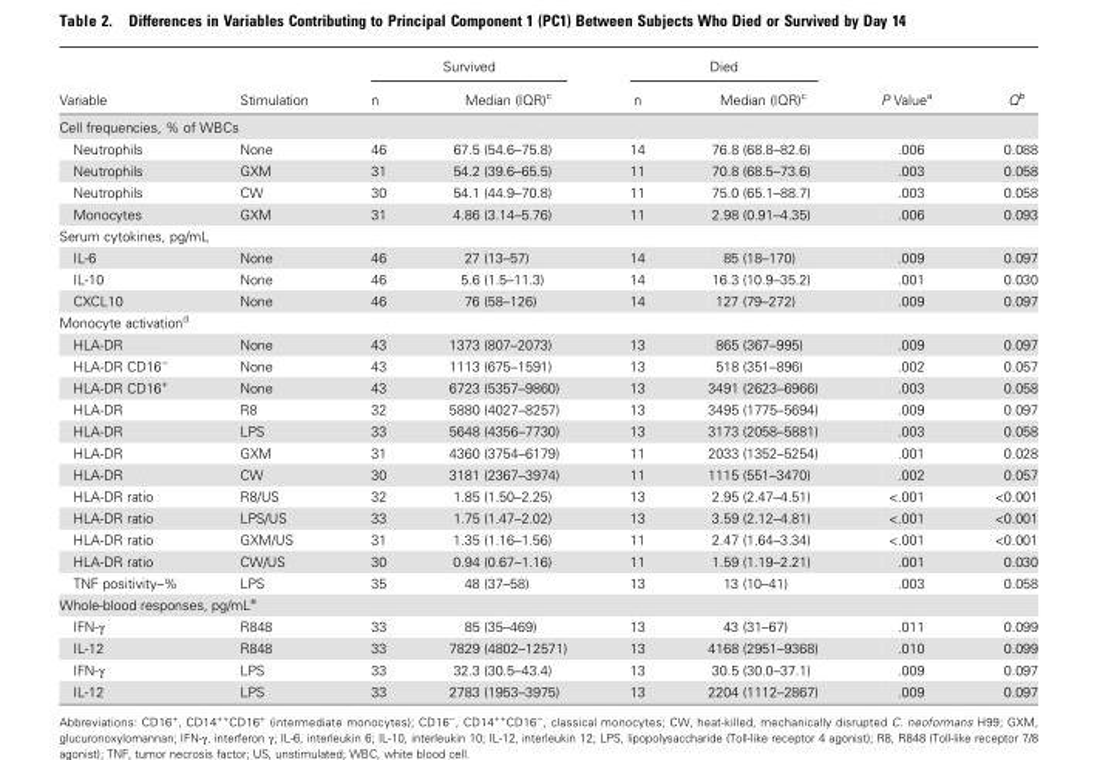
<table><thead><tr><td rowspan="2">Variable</td><td rowspan="2">Stimulation</td><td colspan="2">Survived</td><td colspan="2">Died</td><td rowspan="2">P Value<sup>a</sup></td><td rowspan="2">Q<sup>b</sup></td></tr><tr><td>n</td><td>Median (IQR)<sup>c</sup></td><td>n</td><td>Median (IQR)<sup>c</sup></td></tr></thead><tbody><tr><td colspan="8">Cell frequencies, % of WBCs</td></tr><tr><td>Neutrophils</td><td>None</td><td>46</td><td>67.5 (54.6–75.8)</td><td>14</td><td>76.8 (68.8–82.6)</td><td>.006</td><td>0.088</td></tr><tr><td>Neutrophils</td><td>GXM</td><td>31</td><td>54.2 (39.6–65.5)</td><td>11</td><td>70.8 (68.5–73.6)</td><td>.003</td><td>0.058</td></tr><tr><td>Neutrophils</td><td>CW</td><td>30</td><td>54.1 (44.9–70.8)</td><td>11</td><td>75.0 (65.1–88.7)</td><td>.003</td><td>0.058</td></tr><tr><td>Monocytes</td><td>GXM</td><td>31</td><td>4.86 (3.14–5.76)</td><td>11</td><td>2.98 (0.91–4.35)</td><td>.006</td><td>0.093</td></tr><tr><td colspan="8">Serum cytokines, pg/mL</td></tr><tr><td>IL-6</td><td>None</td><td>46</td><td>27 (13–57)</td><td>14</td><td>85 (18–170)</td><td>.009</td><td>0.097</td></tr><tr><td>IL-10</td><td>None</td><td>46</td><td>5.6 (1.5–11.3)</td><td>14</td><td>16.3 (10.9–35.2)</td><td>.001</td><td>0.030</td></tr><tr><td>CXCL10</td><td>None</td><td>46</td><td>76 (58–126)</td><td>14</td><td>127 (79–272)</td><td>.009</td><td>0.097</td></tr><tr><td colspan="8">Monocyte activation<sup>d</sup></td></tr><tr><td>HLA-DR</td><td>None</td><td>43</td><td>1373 (807–2073)</td><td>13</td><td>865 (367–995)</td><td>.009</td><td>0.097</td></tr><tr><td>HLA-DR CD16<sup>−</sup></td><td>None</td><td>43</td><td>1113 (675–1591)</td><td>13</td><td>518 (351–896)</td><td>.002</td><td>0.057</td></tr><tr><td>HLA-DR CD16<sup>+</sup></td><td>None</td><td>43</td><td>6723 (5357–9860)</td><td>13</td><td>3491 (2623–6966)</td><td>.003</td><td>0.058</td></tr><tr><td>HLA-DR</td><td>R8</td><td>32</td><td>5880 (4027–8257)</td><td>13</td><td>3495 (1775–5694)</td><td>.009</td><td>0.097</td></tr><tr><td>HLA-DR</td><td>LPS</td><td>33</td><td>5648 (4356–7730)</td><td>13</td><td>3173 (2058–5881)</td><td>.003</td><td>0.058</td></tr><tr><td>HLA-DR</td><td>GXM</td><td>31</td><td>4360 (3754–6179)</td><td>11</td><td>2033 (1352–5254)</td><td>.001</td><td>0.028</td></tr><tr><td>HLA-DR</td><td>CW</td><td>30</td><td>3181 (2367–3974)</td><td>11</td><td>1115 (551–3470)</td><td>.002</td><td>0.057</td></tr><tr><td>HLA-DR ratio</td><td>R8/US</td><td>32</td><td>1.85 (1.50–2.25)</td><td>13</td><td>2.95 (2.47–4.51)</td><td>&lt;.001</td><td>&lt;0.001</td></tr><tr><td>HLA-DR ratio</td><td>LPS/US</td><td>33</td><td>1.75 (1.47–2.02)</td><td>13</td><td>3.59 (2.12–4.81)</td><td>&lt;.001</td><td>&lt;0.001</td></tr><tr><td>HLA-DR ratio</td><td>GXM/US</td><td>31</td><td>1.35 (1.16–1.56)</td><td>11</td><td>2.47 (1.64–3.34)</td><td>&lt;.001</td><td>&lt;0.001</td></tr><tr><td>HLA-DR ratio</td><td>CW/US</td><td>30</td><td>0.94 (0.67–1.16)</td><td>11</td><td>1.59 (1.19–2.21)</td><td>.001</td><td>0.030</td></tr><tr><td>TNF positivity–%</td><td>LPS</td><td>35</td><td>48 (37–58)</td><td>13</td><td>13 (10–41)</td><td>.003</td><td>0.058</td></tr><tr><td colspan="8">Whole-blood responses, pg/mL<sup>e</sup></td></tr><tr><td>IFN-γ</td><td>R848</td><td>33</td><td>85 (35–469)</td><td>13</td><td>43 (31–67)</td><td>.011</td><td>0.099</td></tr><tr><td>IL-12</td><td>R848</td><td>33</td><td>7829 (4802–12571)</td><td>13</td><td>4168 (2951–9368)</td><td>.010</td><td>0.099</td></tr><tr><td>IFN-γ</td><td>LPS</td><td>33</td><td>32.3 (30.5–43.4)</td><td>13</td><td>30.5 (30.0–37.1)</td><td>.009</td><td>0.097</td></tr><tr><td>IL-12</td><td>LPS</td><td>33</td><td>2783 (1953–3975)</td><td>13</td><td>2204 (1112–2867)</td><td>.009</td><td>0.097</td></tr></tbody></table>